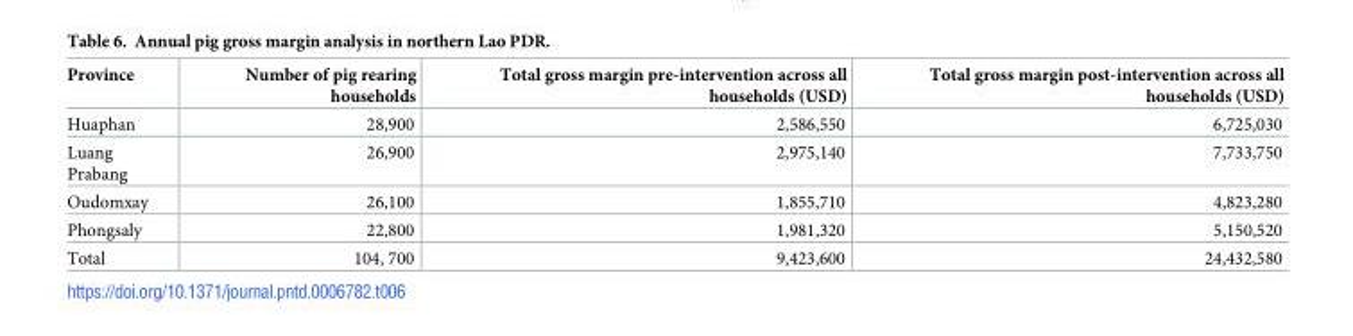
<table><thead><tr><td>Province</td><td>Number of pig rearing households</td><td>Total gross margin pre-intervention across all households (USD)</td><td>Total gross margin post-intervention across all households (USD)</td></tr></thead><tbody><tr><td>Huaphan</td><td>28,900</td><td>2,586,550</td><td>6,725,030</td></tr><tr><td>Luang Prabang</td><td>26,900</td><td>2,975,140</td><td>7,733,750</td></tr><tr><td>Oudomxay</td><td>26,100</td><td>1,855,710</td><td>4,823,280</td></tr><tr><td>Phongsaly</td><td>22,800</td><td>1,981,320</td><td>5,150,520</td></tr><tr><td>Total</td><td>104, 700</td><td>9,423,600</td><td>24,432,580</td></tr></tbody></table>